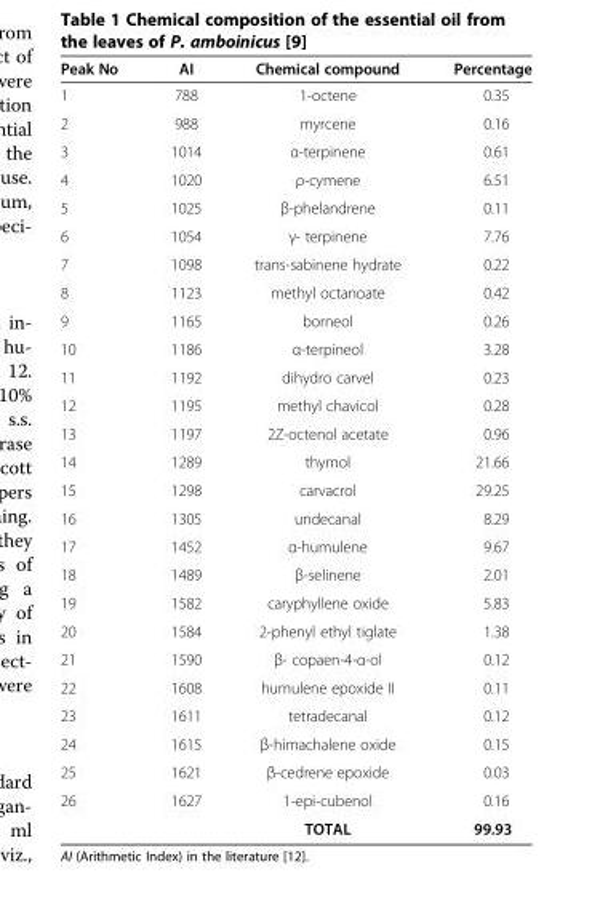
<table><thead><tr><td>Peak No</td><td>AI</td><td>Chemical compound</td><td>Percentage</td></tr></thead><tbody><tr><td>1</td><td>788</td><td>1-octene</td><td>0.35</td></tr><tr><td>2</td><td>988</td><td>myrcene</td><td>0.16</td></tr><tr><td>3</td><td>1014</td><td>α-terpinene</td><td>0.61</td></tr><tr><td>4</td><td>1020</td><td>ρ-cymene</td><td>6.51</td></tr><tr><td>5</td><td>1025</td><td>β-phelandrene</td><td>0.11</td></tr><tr><td>6</td><td>1054</td><td>γ- terpinene</td><td>7.76</td></tr><tr><td>7</td><td>1098</td><td>trans-sabinene hydrate</td><td>0.22</td></tr><tr><td>8</td><td>1123</td><td>methyl octanoate</td><td>0.42</td></tr><tr><td>9</td><td>1165</td><td>borneol</td><td>0.26</td></tr><tr><td>10</td><td>1186</td><td>α-terpineol</td><td>3.28</td></tr><tr><td>11</td><td>1192</td><td>dihydro carvel</td><td>0.23</td></tr><tr><td>12</td><td>1195</td><td>methyl chavicol</td><td>0.28</td></tr><tr><td>13</td><td>1197</td><td>2Z-octenol acetate</td><td>0.96</td></tr><tr><td>14</td><td>1289</td><td>thymol</td><td>21.66</td></tr><tr><td>15</td><td>1298</td><td>carvacrol</td><td>29.25</td></tr><tr><td>16</td><td>1305</td><td>undecanal</td><td>8.29</td></tr><tr><td>17</td><td>1452</td><td>α-humulene</td><td>9.67</td></tr><tr><td>18</td><td>1489</td><td>β-selinene</td><td>2.01</td></tr><tr><td>19</td><td>1582</td><td>caryphyllene oxide</td><td>5.83</td></tr><tr><td>20</td><td>1584</td><td>2-phenyl ethyl tiglate</td><td>1.38</td></tr><tr><td>21</td><td>1590</td><td>β- copaen-4-α-ol</td><td>0.12</td></tr><tr><td>22</td><td>1608</td><td>humulene epoxide II</td><td>0.11</td></tr><tr><td>23</td><td>1611</td><td>tetradecanal</td><td>0.12</td></tr><tr><td>24</td><td>1615</td><td>β-himachalene oxide</td><td>0.15</td></tr><tr><td>25</td><td>1621</td><td>β-cedrene epoxide</td><td>0.03</td></tr><tr><td rowspan="2">26</td><td>1627</td><td>1-epi-cubenol</td><td>0.16</td></tr><tr><td></td><td>TOTAL</td><td>99.93</td></tr></tbody></table>